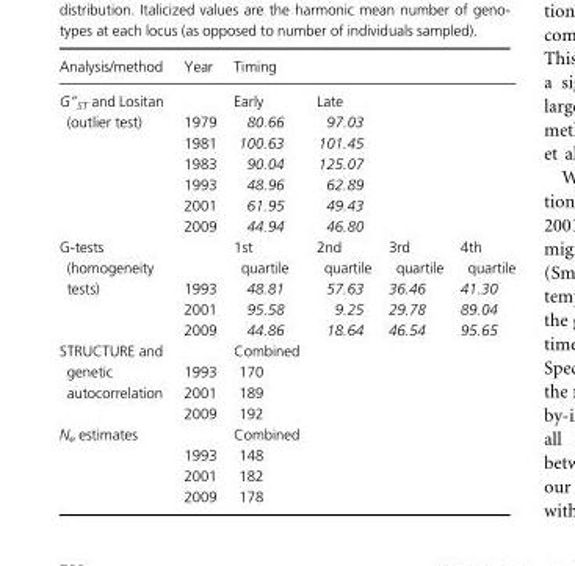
<table><thead><tr><td>Analysis/method</td><td>Year</td><td>Timing</td><td></td><td></td><td></td></tr></thead><tbody><tr><td rowspan="7">G”<sub>ST</sub> and Lositan (outlier test)</td><td></td><td>Early</td><td>Late</td><td></td><td></td></tr><tr><td>1979</td><td>80.66</td><td>97.03</td><td></td><td></td></tr><tr><td>1981</td><td>100.63</td><td>101.45</td><td></td><td></td></tr><tr><td>1983</td><td>90.04</td><td>125.07</td><td></td><td></td></tr><tr><td>1993</td><td>48.96</td><td>62.89</td><td></td><td></td></tr><tr><td>2001</td><td>61.95</td><td>49.43</td><td></td><td></td></tr><tr><td>2009</td><td>44.94</td><td>46.80</td><td></td><td></td></tr><tr><td rowspan="4">G-tests (homogeneity tests)</td><td></td><td>1st quartile</td><td>2nd quartile</td><td>3rd quartile</td><td>4th quartile</td></tr><tr><td>1993</td><td>48.81</td><td>57.63</td><td>36.46</td><td>41.30</td></tr><tr><td>2001</td><td>95.58</td><td>9.25</td><td>29.78</td><td>89.04</td></tr><tr><td>2009</td><td>44.86</td><td>18.64</td><td>46.54</td><td>95.65</td></tr><tr><td rowspan="4">STRUCTURE and genetic autocorrelation</td><td></td><td>Combined</td><td></td><td></td><td></td></tr><tr><td>1993</td><td>170</td><td></td><td></td><td></td></tr><tr><td>2001</td><td>189</td><td></td><td></td><td></td></tr><tr><td>2009</td><td>192</td><td></td><td></td><td></td></tr><tr><td rowspan="4">N<sub>e</sub> estimates</td><td></td><td>Combined</td><td></td><td></td><td></td></tr><tr><td>1993</td><td>148</td><td></td><td></td><td></td></tr><tr><td>2001</td><td>182</td><td></td><td></td><td></td></tr><tr><td>2009</td><td>178</td><td></td><td></td><td></td></tr></tbody></table>